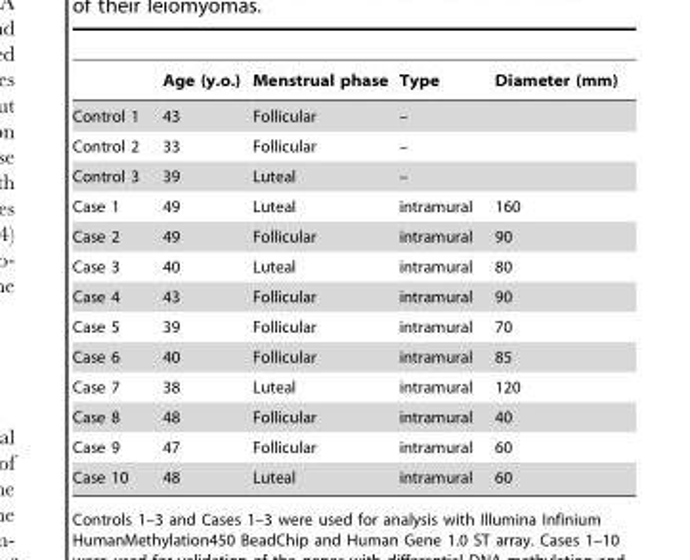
<table><thead><tr><td></td><td>Age (y.o.)</td><td>Menstrual phase</td><td>Type</td><td>Diameter (mm)</td></tr></thead><tbody><tr><td>Control 1</td><td>43</td><td>Follicular</td><td>–</td><td></td></tr><tr><td>Control 2</td><td>33</td><td>Follicular</td><td>–</td><td></td></tr><tr><td>Control 3</td><td>39</td><td>Luteal</td><td>–</td><td></td></tr><tr><td>Case 1</td><td>49</td><td>Luteal</td><td>intramural</td><td>160</td></tr><tr><td>Case 2</td><td>49</td><td>Follicular</td><td>intramural</td><td>90</td></tr><tr><td>Case 3</td><td>40</td><td>Luteal</td><td>intramural</td><td>80</td></tr><tr><td>Case 4</td><td>43</td><td>Follicular</td><td>intramural</td><td>90</td></tr><tr><td>Case 5</td><td>39</td><td>Follicular</td><td>intramural</td><td>70</td></tr><tr><td>Case 6</td><td>40</td><td>Follicular</td><td>intramural</td><td>85</td></tr><tr><td>Case 7</td><td>38</td><td>Luteal</td><td>intramural</td><td>120</td></tr><tr><td>Case 8</td><td>48</td><td>Follicular</td><td>intramural</td><td>40</td></tr><tr><td>Case 9</td><td>47</td><td>Follicular</td><td>intramural</td><td>60</td></tr><tr><td>Case 10</td><td>48</td><td>Luteal</td><td>intramural</td><td>60</td></tr></tbody></table>